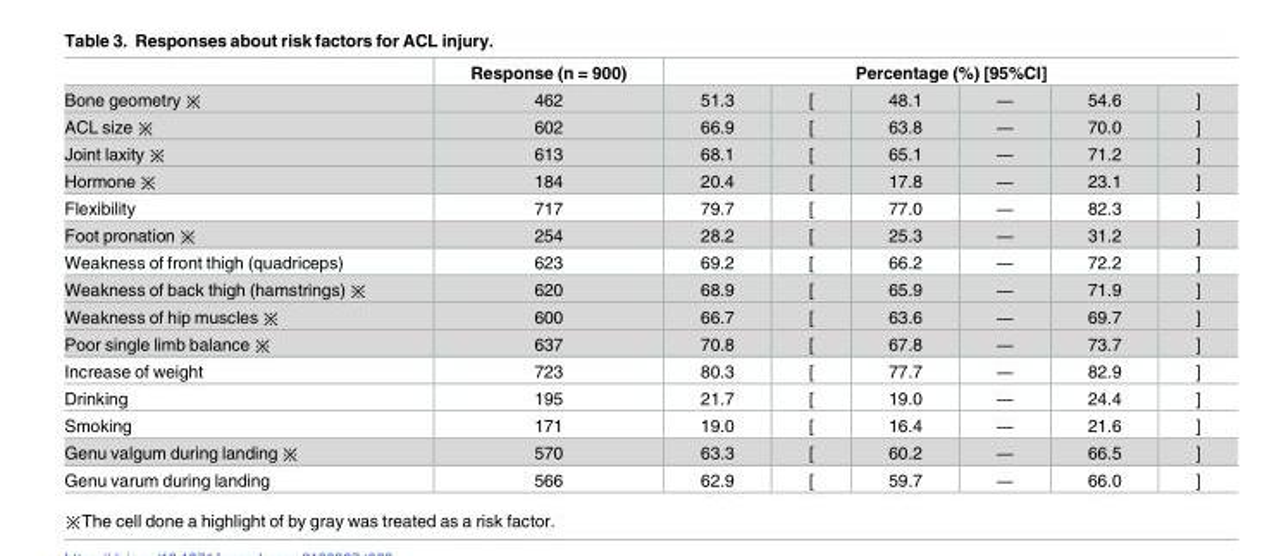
<table><thead><tr><td rowspan="2">Bone geometry ※</td><td rowspan="2">Response (n = 900) 462</td><td colspan="6">Percentage (%) [95%CI]</td></tr><tr><td>51.3</td><td>[</td><td>48.1</td><td>―</td><td>54.6</td><td>]</td></tr></thead><tbody><tr><td>ACL size ※</td><td>602</td><td>66.9</td><td>[</td><td>63.8</td><td>―</td><td>70.0</td><td>]</td></tr><tr><td>Joint laxity ※</td><td>613</td><td>68.1</td><td>[</td><td>65.1</td><td>―</td><td>71.2</td><td>]</td></tr><tr><td>Hormone ※</td><td>184</td><td>20.4</td><td>[</td><td>17.8</td><td>―</td><td>23.1</td><td>]</td></tr><tr><td>Flexibility</td><td>717</td><td>79.7</td><td>[</td><td>77.0</td><td>―</td><td>82.3</td><td>]</td></tr><tr><td>Foot pronation ※</td><td>254</td><td>28.2</td><td>[</td><td>25.3</td><td>―</td><td>31.2</td><td>]</td></tr><tr><td>Weakness of front thigh (quadriceps)</td><td>623</td><td>69.2</td><td>[</td><td>66.2</td><td>―</td><td>72.2</td><td>]</td></tr><tr><td>Weakness of back thigh (hamstrings) ※</td><td>620</td><td>68.9</td><td>[</td><td>65.9</td><td>―</td><td>71.9</td><td>]</td></tr><tr><td>Weakness of hip muscles ※</td><td>600</td><td>66.7</td><td>[</td><td>63.6</td><td>―</td><td>69.7</td><td>]</td></tr><tr><td>Poor single limb balance ※</td><td>637</td><td>70.8</td><td>[</td><td>67.8</td><td>―</td><td>73.7</td><td>]</td></tr><tr><td>Increase of weight</td><td>723</td><td>80.3</td><td>[</td><td>77.7</td><td>―</td><td>82.9</td><td>]</td></tr><tr><td>Drinking</td><td>195</td><td>21.7</td><td>[</td><td>19.0</td><td>―</td><td>24.4</td><td>]</td></tr><tr><td>Smoking</td><td>171</td><td>19.0</td><td>[</td><td>16.4</td><td>―</td><td>21.6</td><td>]</td></tr><tr><td>Genu valgum during landing ※</td><td>570</td><td>63.3</td><td>[</td><td>60.2</td><td>―</td><td>66.5</td><td>]</td></tr><tr><td>Genu varum during landing</td><td>566</td><td>62.9</td><td>[</td><td>59.7</td><td>―</td><td>66.0</td><td>]</td></tr></tbody></table>